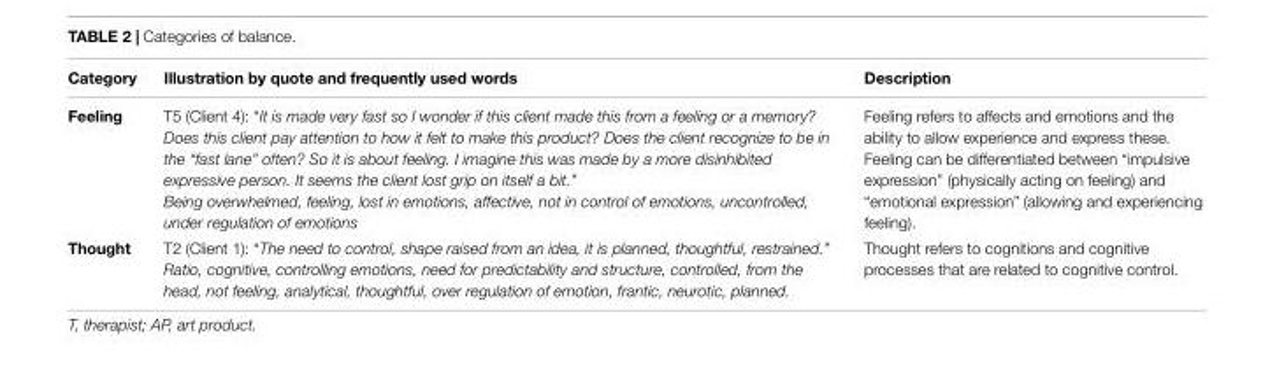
<table><thead><tr><td>Category</td><td>Illustration by quote and frequently used words</td><td>Description</td></tr></thead><tbody><tr><td>Feeling</td><td>T5 (Client 4): “It is made very fast so I wonder if this client made this from a feeling or a memory? Does this client pay attention to how it felt to make this product? Does the client recognize to be in the “fast lane” often? So it is about feeling. I imagine this was made by a more disinhibited expressive person. It seems the client lost grip on itself a bit.” Being overwhelmed, feeling, lost in emotions, affective, not in control of emotions, uncontrolled, under regulation of emotions</td><td>Feeling refers to affects and emotions and the ability to allow experience and express these. Feeling can be differentiated between “impulsive expression” (physically acting on feeling) and “emotional expression” (allowing and experiencing feeling).</td></tr><tr><td>Thought</td><td>T2 (Client 1): “The need to control, shape raised from an idea, it is planned, thoughtful, restrained.” Ratio, cognitive, controlling emotions, need for predictability and structure, controlled, from the head, not feeling, analytical, thoughtful, over regulation of emotion, frantic, neurotic, planned.</td><td>Thought refers to cognitions and cognitive processes that are related to cognitive control.</td></tr></tbody></table>